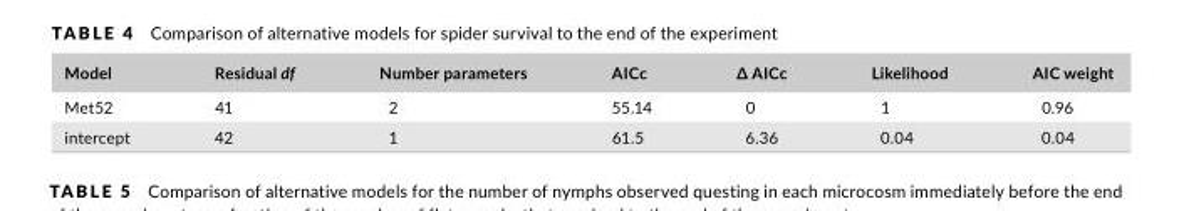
<table><thead><tr><td>Model</td><td>Residual df</td><td>Number parameters</td><td>AICc</td><td>∆ AICc</td><td>Likelihood</td><td>AIC weight</td></tr></thead><tbody><tr><td>Met52</td><td>41</td><td>2</td><td>55.14</td><td>0</td><td>1</td><td>0.96</td></tr><tr><td>intercept</td><td>42</td><td>1</td><td>61.5</td><td>6.36</td><td>0.04</td><td>0.04</td></tr></tbody></table>